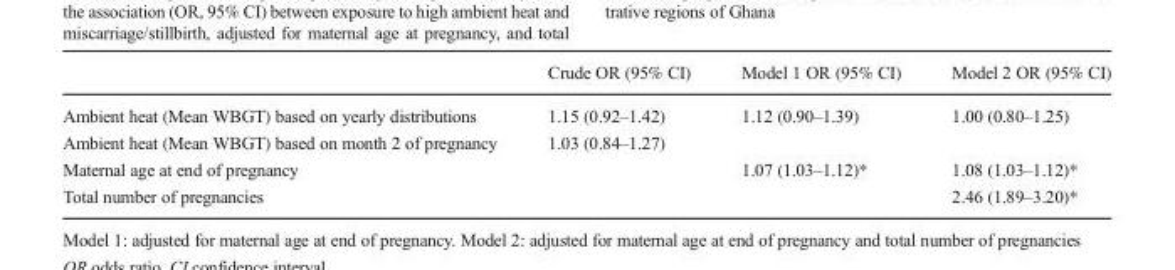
<table><thead><tr><td></td><td>Crude OR (95% CI)</td><td>Model 1 OR (95% CI)</td><td>Model 2 OR (95% CI)</td></tr></thead><tbody><tr><td>Ambient heat (Mean WBGT) based on yearly distributions</td><td>1.15 (0.92–1.42)</td><td>1.12 (0.90–1.39)</td><td>1.00 (0.80–1.25)</td></tr><tr><td>Ambient heat (Mean WBGT) based on month 2 of pregnancy</td><td>1.03 (0.84–1.27)</td><td></td><td></td></tr><tr><td>Maternal age at end of pregnancy</td><td></td><td>1.07 (1.03–1.12)*</td><td>1.08 (1.03–1.12)*</td></tr><tr><td>Total number of pregnancies</td><td></td><td></td><td>2.46 (1.89–3.20)*</td></tr></tbody></table>